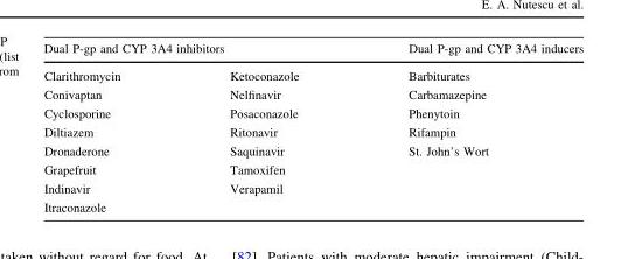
<table><thead><tr><td colspan="2">Dual P-gp and CYP 3A4 inhibitors</td><td rowspan="2">Dual P-gp and CYP 3A4 inducers Barbiturates</td></tr><tr><td>Clarithromycin</td><td>Ketoconazole</td></tr></thead><tbody><tr><td>Conivaptan</td><td>Nelfinavir</td><td>Carbamazepine</td></tr><tr><td>Cyclosporine</td><td>Posaconazole</td><td>Phenytoin</td></tr><tr><td>Diltiazem</td><td>Ritonavir</td><td>Rifampin</td></tr><tr><td>Dronaderone</td><td>Saquinavir</td><td>St. John’s Wort</td></tr><tr><td>Grapefruit</td><td>Tamoxifen</td><td></td></tr><tr><td>Indinavir</td><td>Verapamil</td><td></td></tr><tr><td>Itraconazole</td><td></td><td></td></tr></tbody></table>